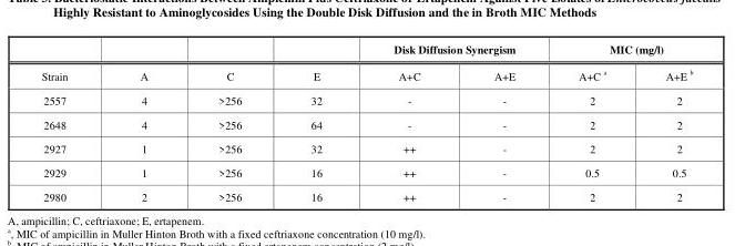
<table><thead><tr><td rowspan="2">Strain</td><td rowspan="2">A</td><td rowspan="2">C</td><td rowspan="2">E</td><td colspan="2">Disk Diffusion Synergism</td><td colspan="2">MIC (mg/l)</td></tr><tr><td>A+C</td><td>A+E</td><td>A+C <sup>a</sup></td><td>A+E <sup>b</sup></td></tr></thead><tbody><tr><td>2557</td><td>4</td><td>&gt;256</td><td>32</td><td>-</td><td>-</td><td>2</td><td>2</td></tr><tr><td>2648</td><td>4</td><td>&gt;256</td><td>64</td><td>-</td><td>-</td><td>2</td><td>2</td></tr><tr><td>2927</td><td>1</td><td>&gt;256</td><td>32</td><td>++</td><td>-</td><td>2</td><td>2</td></tr><tr><td>2929</td><td>1</td><td>&gt;256</td><td>16</td><td>++</td><td>-</td><td>0.5</td><td>0.5</td></tr><tr><td>2980</td><td>2</td><td>&gt;256</td><td>16</td><td>++</td><td>-</td><td>2</td><td>2</td></tr></tbody></table>